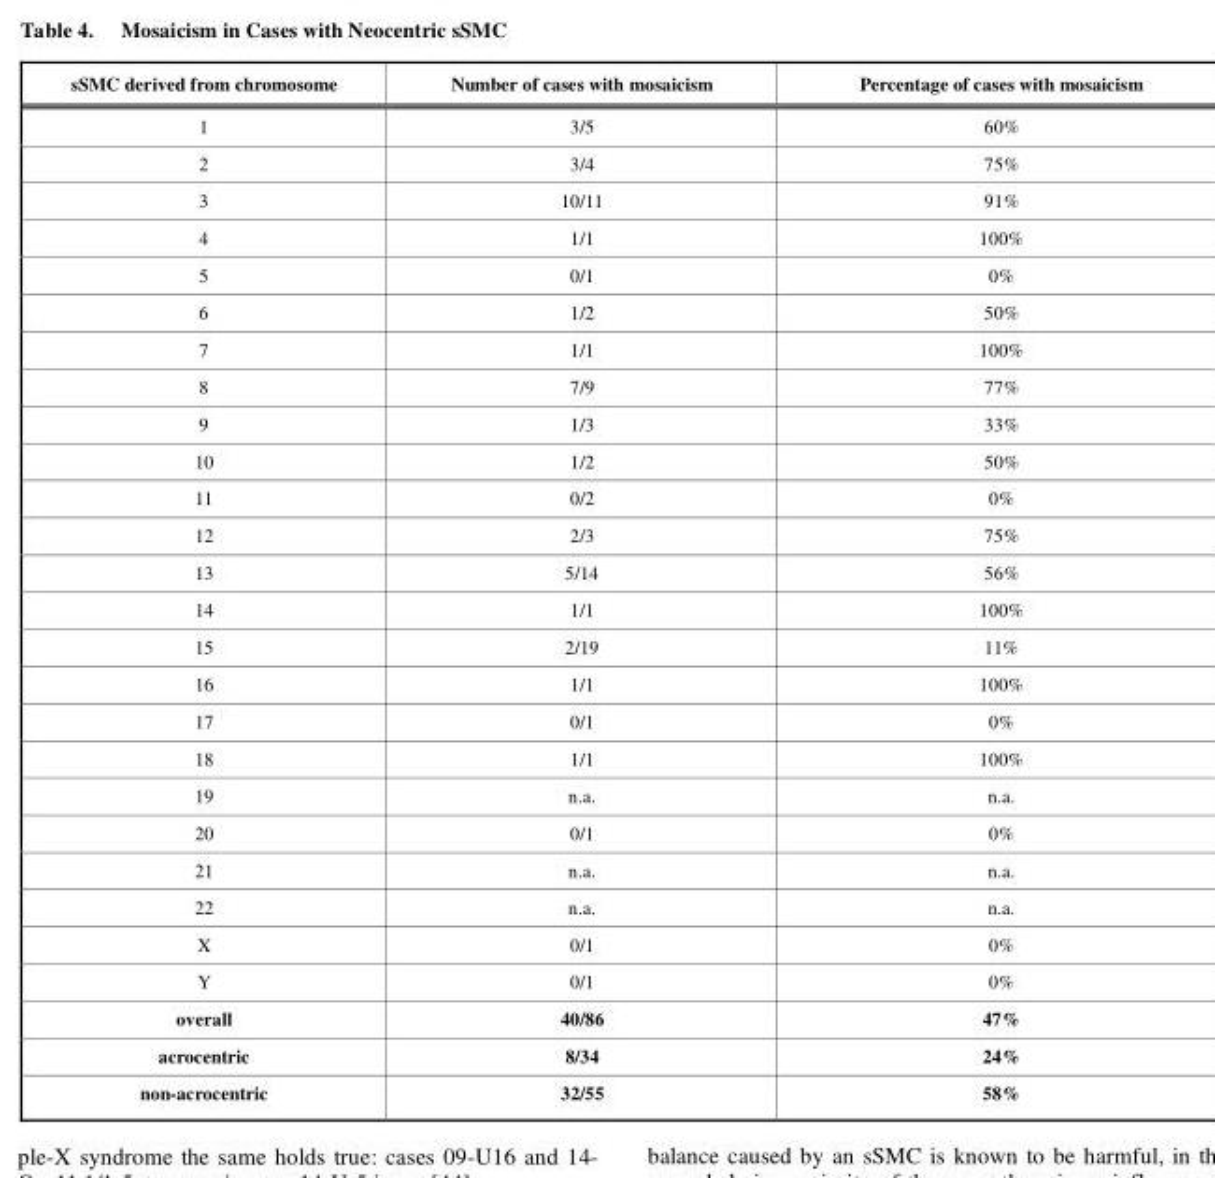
<table><thead><tr><td>sSMC derived from chromosome</td><td>Number of cases with mosaicism</td><td>Percentage of cases with mosaicism</td></tr></thead><tbody><tr><td>1</td><td>3/5</td><td>60%</td></tr><tr><td>2</td><td>3/4</td><td>75%</td></tr><tr><td>3</td><td>10/11</td><td>91%</td></tr><tr><td>4</td><td>1/1</td><td>100%</td></tr><tr><td>5</td><td>0/1</td><td>0%</td></tr><tr><td>6</td><td>1/2</td><td>50%</td></tr><tr><td>7</td><td>1/1</td><td>100%</td></tr><tr><td>8</td><td>7/9</td><td>77%</td></tr><tr><td>9</td><td>1/3</td><td>33%</td></tr><tr><td>10</td><td>1/2</td><td>50%</td></tr><tr><td>11</td><td>0/2</td><td>0%</td></tr><tr><td>12</td><td>2/3</td><td>75%</td></tr><tr><td>13</td><td>5/14</td><td>56%</td></tr><tr><td>14</td><td>1/1</td><td>100%</td></tr><tr><td>15</td><td>2/19</td><td>11%</td></tr><tr><td>16</td><td>1/1</td><td>100%</td></tr><tr><td>17</td><td>0/1</td><td>0%</td></tr><tr><td>18</td><td>1/1</td><td>100%</td></tr><tr><td>19</td><td>n.a.</td><td>n.a.</td></tr><tr><td>20</td><td>0/1</td><td>0%</td></tr><tr><td>21</td><td>n.a.</td><td>n.a.</td></tr><tr><td>22</td><td>n.a.</td><td>n.a.</td></tr><tr><td>X</td><td>0/1</td><td>0%</td></tr><tr><td>Y</td><td>0/1</td><td>0%</td></tr><tr><td>overall</td><td>40/86</td><td>47%</td></tr><tr><td>acrocentric</td><td>8/34</td><td>24%</td></tr><tr><td>non-acrocentric</td><td>32/55</td><td>58%</td></tr></tbody></table>